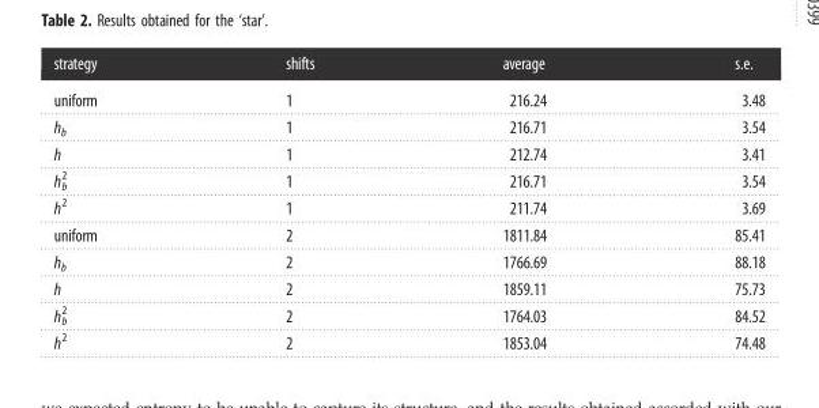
<table><thead><tr><td>strategy</td><td>shifts</td><td>average</td><td>s.e.</td></tr></thead><tbody><tr><td>uniform</td><td>1</td><td>216.24</td><td>3.48</td></tr><tr><td>h<sub>b</sub></td><td>1</td><td>216.71</td><td>3.54</td></tr><tr><td>h</td><td>1</td><td>212.74</td><td>3.41</td></tr><tr><td>h<sup>2</sup> <sub>b</sub></td><td>1</td><td>216.71</td><td>3.54</td></tr><tr><td>h<sup>2</sup></td><td>1</td><td>211.74</td><td>3.69</td></tr><tr><td>uniform</td><td>2</td><td>1811.84</td><td>85.41</td></tr><tr><td>h<sub>b</sub></td><td>2</td><td>1766.69</td><td>88.18</td></tr><tr><td>h</td><td>2</td><td>1859.11</td><td>75.73</td></tr><tr><td>h<sup>2</sup> <sub>b</sub></td><td>2</td><td>1764.03</td><td>84.52</td></tr><tr><td>h<sup>2</sup></td><td>2</td><td>1853.04</td><td>74.48</td></tr></tbody></table>